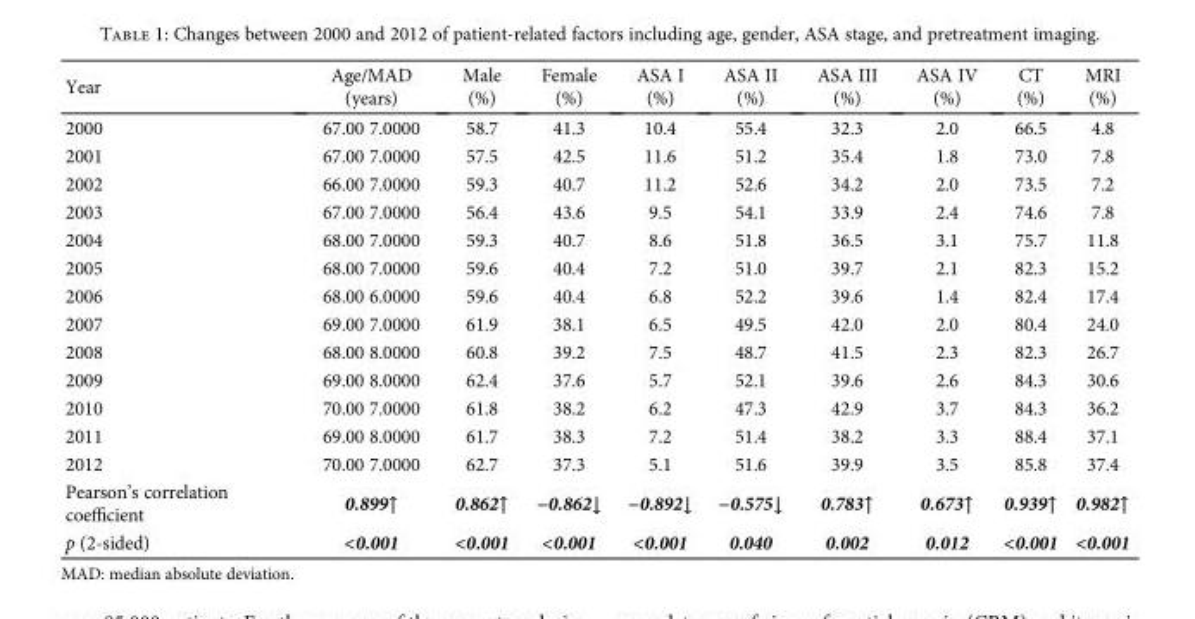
<table><thead><tr><td>Year</td><td>Age/MAD (years)</td><td>Male (%)</td><td>Female (%)</td><td>ASA I (%)</td><td>ASA II (%)</td><td>ASA III (%)</td><td>ASA IV (%)</td><td>CT (%)</td><td>MRI (%)</td></tr></thead><tbody><tr><td>2000</td><td>67.00 7.0000</td><td>58.7</td><td>41.3</td><td>10.4</td><td>55.4</td><td>32.3</td><td>2.0</td><td>66.5</td><td>4.8</td></tr><tr><td>2001</td><td>67.00 7.0000</td><td>57.5</td><td>42.5</td><td>11.6</td><td>51.2</td><td>35.4</td><td>1.8</td><td>73.0</td><td>7.8</td></tr><tr><td>2002</td><td>66.00 7.0000</td><td>59.3</td><td>40.7</td><td>11.2</td><td>52.6</td><td>34.2</td><td>2.0</td><td>73.5</td><td>7.2</td></tr><tr><td>2003</td><td>67.00 7.0000</td><td>56.4</td><td>43.6</td><td>9.5</td><td>54.1</td><td>33.9</td><td>2.4</td><td>74.6</td><td>7.8</td></tr><tr><td>2004</td><td>68.00 7.0000</td><td>59.3</td><td>40.7</td><td>8.6</td><td>51.8</td><td>36.5</td><td>3.1</td><td>75.7</td><td>11.8</td></tr><tr><td>2005</td><td>68.00 7.0000</td><td>59.6</td><td>40.4</td><td>7.2</td><td>51.0</td><td>39.7</td><td>2.1</td><td>82.3</td><td>15.2</td></tr><tr><td>2006</td><td>68.00 6.0000</td><td>59.6</td><td>40.4</td><td>6.8</td><td>52.2</td><td>39.6</td><td>1.4</td><td>82.4</td><td>17.4</td></tr><tr><td>2007</td><td>69.00 7.0000</td><td>61.9</td><td>38.1</td><td>6.5</td><td>49.5</td><td>42.0</td><td>2.0</td><td>80.4</td><td>24.0</td></tr><tr><td>2008</td><td>68.00 8.0000</td><td>60.8</td><td>39.2</td><td>7.5</td><td>48.7</td><td>41.5</td><td>2.3</td><td>82.3</td><td>26.7</td></tr><tr><td>2009</td><td>69.00 8.0000</td><td>62.4</td><td>37.6</td><td>5.7</td><td>52.1</td><td>39.6</td><td>2.6</td><td>84.3</td><td>30.6</td></tr><tr><td>2010</td><td>70.00 7.0000</td><td>61.8</td><td>38.2</td><td>6.2</td><td>47.3</td><td>42.9</td><td>3.7</td><td>84.3</td><td>36.2</td></tr><tr><td>2011</td><td>69.00 8.0000</td><td>61.7</td><td>38.3</td><td>7.2</td><td>51.4</td><td>38.2</td><td>3.3</td><td>88.4</td><td>37.1</td></tr><tr><td>2012</td><td>70.00 7.0000</td><td>62.7</td><td>37.3</td><td>5.1</td><td>51.6</td><td>39.9</td><td>3.5</td><td>85.8</td><td>37.4</td></tr><tr><td>Pearson’s correlation coefficient</td><td>0.899↑</td><td>0.862↑</td><td>−0.862↓</td><td>−0.892↓</td><td>−0.575↓</td><td>0.783↑</td><td>0.673↑</td><td>0.939↑</td><td>0.982↑</td></tr><tr><td>p (2-sided)</td><td>&lt;0.001</td><td>&lt;0.001</td><td>&lt;0.001</td><td>&lt;0.001</td><td>0.040</td><td>0.002</td><td>0.012</td><td>&lt;0.001</td><td>&lt;0.001</td></tr></tbody></table>